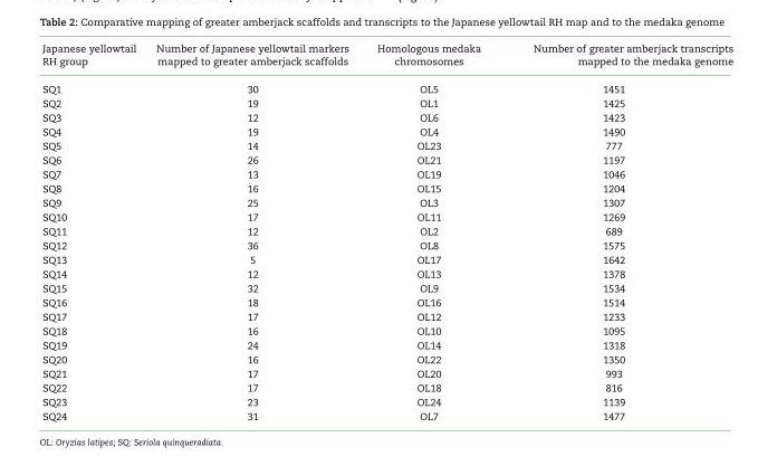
<table><thead><tr><td>Japanese yellowtail RH group</td><td>Number of Japanese yellowtail markers mapped to greater amberjack scaffolds</td><td>Homologous medaka chromosomes</td><td>Number of greater amberjack transcripts mapped to the medaka genome</td></tr></thead><tbody><tr><td>SQ1</td><td>30</td><td>OL5</td><td>1451</td></tr><tr><td>SQ2</td><td>19</td><td>OL1</td><td>1425</td></tr><tr><td>SQ3</td><td>12</td><td>OL6</td><td>1423</td></tr><tr><td>SQ4</td><td>19</td><td>OL4</td><td>1490</td></tr><tr><td>SQ5</td><td>14</td><td>OL23</td><td>777</td></tr><tr><td>SQ6</td><td>26</td><td>OL21</td><td>1197</td></tr><tr><td>SQ7</td><td>13</td><td>OL19</td><td>1046</td></tr><tr><td>SQ8</td><td>16</td><td>OL15</td><td>1204</td></tr><tr><td>SQ9</td><td>25</td><td>OL3</td><td>1307</td></tr><tr><td>SQ10</td><td>17</td><td>OL11</td><td>1269</td></tr><tr><td>SQ11</td><td>12</td><td>OL2</td><td>689</td></tr><tr><td>SQ12</td><td>36</td><td>OL8</td><td>1575</td></tr><tr><td>SQ13</td><td>5</td><td>OL17</td><td>1642</td></tr><tr><td>SQ14</td><td>12</td><td>OL13</td><td>1378</td></tr><tr><td>SQ15</td><td>32</td><td>OL9</td><td>1534</td></tr><tr><td>SQ16</td><td>18</td><td>OL16</td><td>1514</td></tr><tr><td>SQ17</td><td>17</td><td>OL12</td><td>1233</td></tr><tr><td>SQ18</td><td>16</td><td>OL10</td><td>1095</td></tr><tr><td>SQ19</td><td>24</td><td>OL14</td><td>1318</td></tr><tr><td>SQ20</td><td>16</td><td>OL22</td><td>1350</td></tr><tr><td>SQ21</td><td>17</td><td>OL20</td><td>993</td></tr><tr><td>SQ22</td><td>17</td><td>OL18</td><td>816</td></tr><tr><td>SQ23</td><td>23</td><td>OL24</td><td>1139</td></tr><tr><td>SQ24</td><td>31</td><td>OL7</td><td>1477</td></tr></tbody></table>